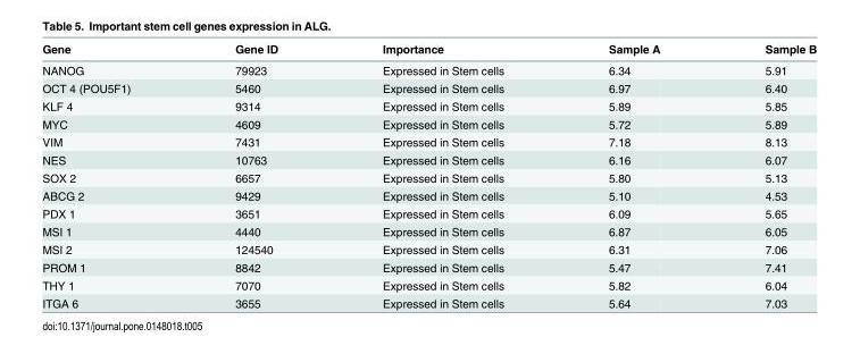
<table><thead><tr><td>Gene</td><td>Gene ID</td><td>Importance</td><td>Sample A</td><td>Sample B</td></tr></thead><tbody><tr><td>NANOG</td><td>79923</td><td>Expressed in Stem cells</td><td>6.34</td><td>5.91</td></tr><tr><td>OCT 4 (POU5F1)</td><td>5460</td><td>Expressed in Stem cells</td><td>6.97</td><td>6.40</td></tr><tr><td>KLF 4</td><td>9314</td><td>Expressed in Stem cells</td><td>5.89</td><td>5.85</td></tr><tr><td>MYC</td><td>4609</td><td>Expressed in Stem cells</td><td>5.72</td><td>5.89</td></tr><tr><td>VIM</td><td>7431</td><td>Expressed in Stem cells</td><td>7.18</td><td>8.13</td></tr><tr><td>NES</td><td>10763</td><td>Expressed in Stem cells</td><td>6.16</td><td>6.07</td></tr><tr><td>SOX 2</td><td>6657</td><td>Expressed in Stem cells</td><td>5.80</td><td>5.13</td></tr><tr><td>ABCG 2</td><td>9429</td><td>Expressed in Stem cells</td><td>5.10</td><td>4.53</td></tr><tr><td>PDX 1</td><td>3651</td><td>Expressed in Stem cells</td><td>6.09</td><td>5.65</td></tr><tr><td>MSI 1</td><td>4440</td><td>Expressed in Stem cells</td><td>6.87</td><td>6.05</td></tr><tr><td>MSI 2</td><td>124540</td><td>Expressed in Stem cells</td><td>6.31</td><td>7.06</td></tr><tr><td>PROM 1</td><td>8842</td><td>Expressed in Stem cells</td><td>5.47</td><td>7.41</td></tr><tr><td>THY 1</td><td>7070</td><td>Expressed in Stem cells</td><td>5.82</td><td>6.04</td></tr><tr><td>ITGA 6</td><td>3655</td><td>Expressed in Stem cells</td><td>5.64</td><td>7.03</td></tr></tbody></table>